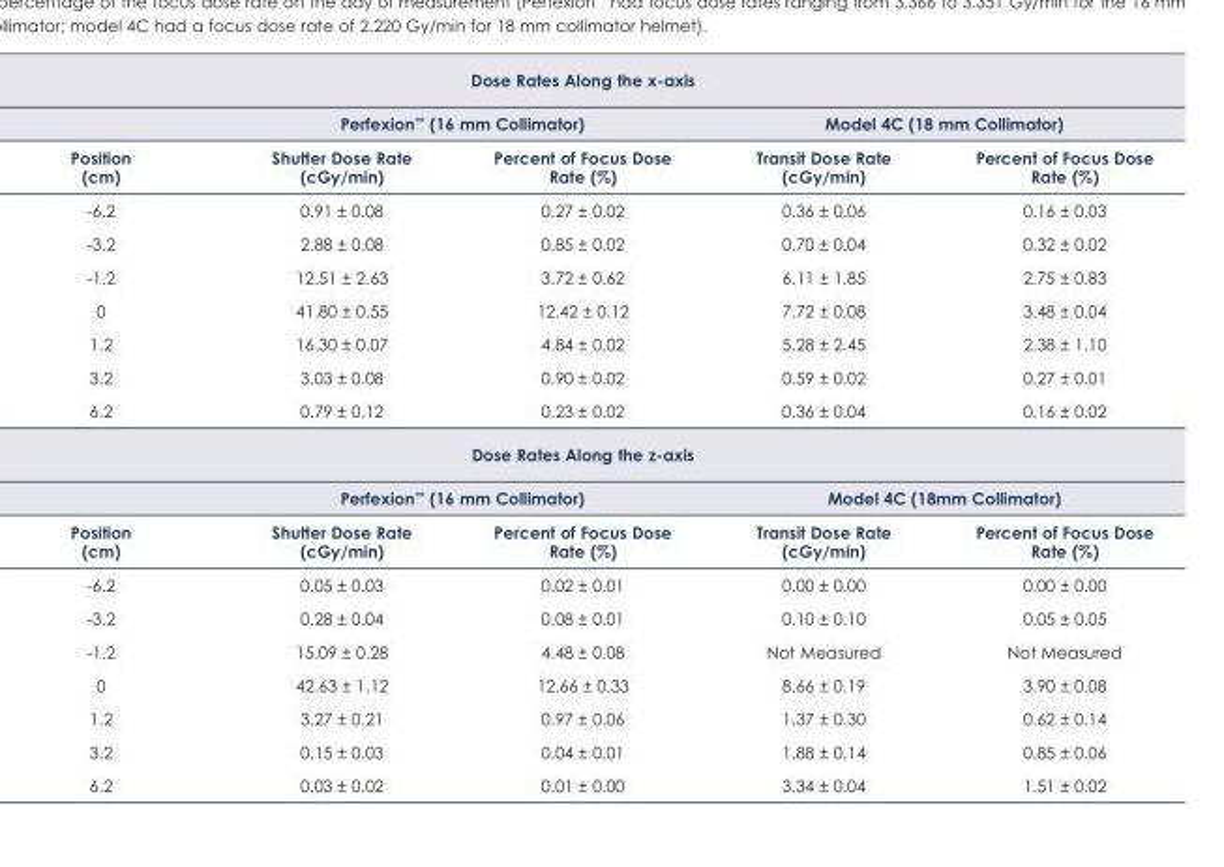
<table><tbody><tr><td colspan="5">Dose Rates Along the x-axis</td></tr><tr><td></td><td colspan="2">Perfexion<sup>™</sup> (16 mm Collimator)</td><td colspan="2">Model 4C (18 mm Collimator)</td></tr><tr><td>Position (cm)</td><td>Shutter Dose Rate (cGy/min)</td><td>Percent of Focus Dose Rate (%)</td><td>Transit Dose Rate (cGy/min)</td><td>Percent of Focus Dose Rate (%)</td></tr><tr><td>-6.2</td><td>0.91 ± 0.08</td><td>0.27 ± 0.02</td><td>0.36 ± 0.06</td><td>0.16 ± 0.03</td></tr><tr><td>-3.2</td><td>2.88 ± 0.08</td><td>0.85 ± 0.02</td><td>0.70 ± 0.04</td><td>0.32 ± 0.02</td></tr><tr><td>-1.2</td><td>12.51 ± 2.63</td><td>3.72 ± 0.62</td><td>6.11 ± 1.85</td><td>2.75 ± 0.83</td></tr><tr><td>0</td><td>41.80 ± 0.55</td><td>12.42 ± 0.12</td><td>7.72 ± 0.08</td><td>3.48 ± 0.04</td></tr><tr><td>1.2</td><td>16.30 ± 0.07</td><td>4.84 ± 0.02</td><td>5.28 ± 2.45</td><td>2.38 ± 1.10</td></tr><tr><td>3.2</td><td>3.03 ± 0.08</td><td>0.90 ± 0.02</td><td>0.59 ± 0.02</td><td>0.27 ± 0.01</td></tr><tr><td>6.2</td><td>0.79 ± 0.12</td><td>0.23 ± 0.02</td><td>0.36 ± 0.04</td><td>0.16 ± 0.02</td></tr><tr><td colspan="5">Dose Rates Along the z-axis</td></tr><tr><td></td><td colspan="2">Perfexion<sup>™</sup> (16 mm Collimator)</td><td colspan="2">Model 4C (18mm Collimator)</td></tr><tr><td>Position (cm)</td><td>Shutter Dose Rate (cGy/min)</td><td>Percent of Focus Dose Rate (%)</td><td>Transit Dose Rate (cGy/min)</td><td>Percent of Focus Dose Rate (%)</td></tr><tr><td>-6.2</td><td>0.05 ± 0.03</td><td>0.02 ± 0.01</td><td>0.00 ± 0.00</td><td>0.00 ± 0.00</td></tr><tr><td>-3.2</td><td>0.28 ± 0.04</td><td>0.08 ± 0.01</td><td>0.10 ± 0.10</td><td>0.05 ± 0.05</td></tr><tr><td>-1.2</td><td>15.09 ± 0.28</td><td>4.48 ± 0.08</td><td>Not Measured</td><td>Not Measured</td></tr><tr><td>0</td><td>42.63 ± 1.12</td><td>12.66 ± 0.33</td><td>8.66 ± 0.19</td><td>3.90 ± 0.08</td></tr><tr><td>1.2</td><td>3.27 ± 0.21</td><td>0.97 ± 0.06</td><td>1.37 ± 0.30</td><td>0.62 ± 0.14</td></tr><tr><td>3.2</td><td>0.15 ± 0.03</td><td>0.04 ± 0.01</td><td>1.88 ± 0.14</td><td>0.85 ± 0.06</td></tr><tr><td>6.2</td><td>0.03 ± 0.02</td><td>0.01 ± 0.00</td><td>3.34 ± 0.04</td><td>1.51 ± 0.02</td></tr></tbody></table>